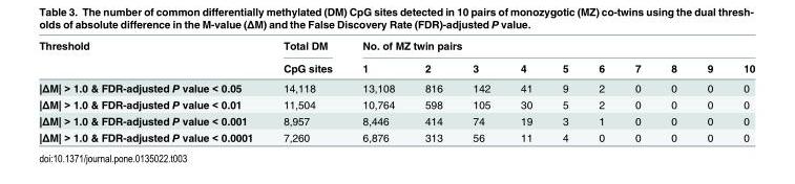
<table><thead><tr><td rowspan="2">Threshold</td><td rowspan="2">Total DM CpG sites</td><td colspan="10">No. of MZ twin pairs</td></tr><tr><td>1</td><td>2</td><td>3</td><td>4</td><td>5</td><td>6</td><td>7</td><td>8</td><td>9</td><td>10</td></tr></thead><tbody><tr><td>|ΔM| &gt; 1.0 &amp; FDR-adjusted P value &lt; 0.05</td><td>14,118</td><td>13,108</td><td>816</td><td>142</td><td>41</td><td>9</td><td>2</td><td>0</td><td>0</td><td>0</td><td>0</td></tr><tr><td>|ΔM| &gt; 1.0 &amp; FDR-adjusted P value &lt; 0.01</td><td>11,504</td><td>10,764</td><td>598</td><td>105</td><td>30</td><td>5</td><td>2</td><td>0</td><td>0</td><td>0</td><td>0</td></tr><tr><td>|ΔM| &gt; 1.0 &amp; FDR-adjusted P value &lt; 0.001</td><td>8,957</td><td>8,446</td><td>414</td><td>74</td><td>19</td><td>3</td><td>1</td><td>0</td><td>0</td><td>0</td><td>0</td></tr><tr><td>|ΔM| &gt; 1.0 &amp; FDR-adjusted P value &lt; 0.0001</td><td>7,260</td><td>6,876</td><td>313</td><td>56</td><td>11</td><td>4</td><td>0</td><td>0</td><td>0</td><td>0</td><td>0</td></tr></tbody></table>